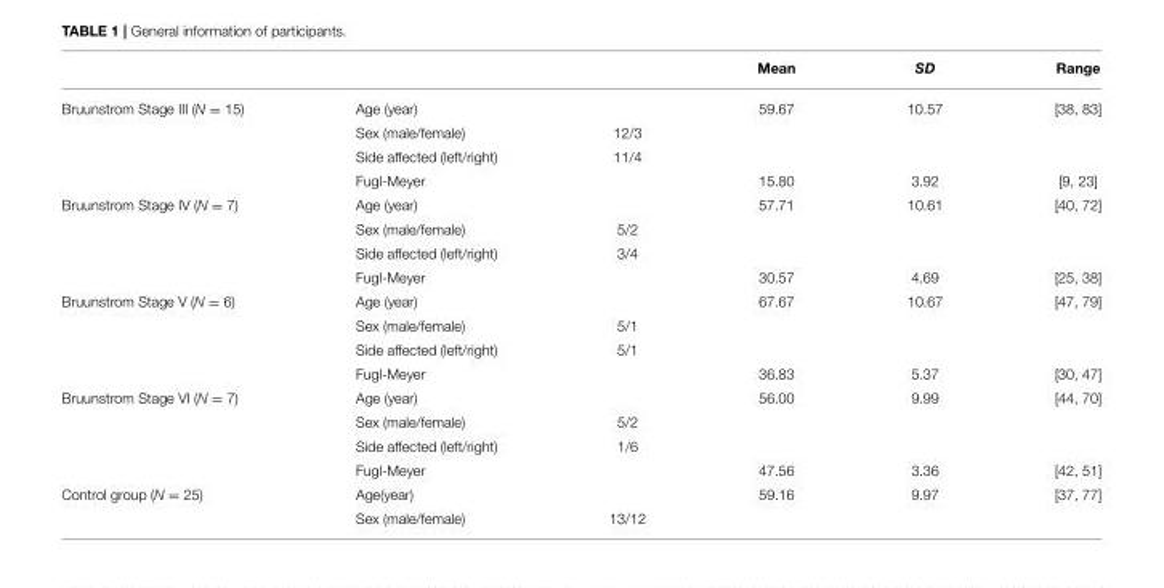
<table><thead><tr><td></td><td></td><td></td><td>Mean</td><td>SD</td><td>Range</td></tr></thead><tbody><tr><td rowspan="4">Bruunstrom Stage III (N = 15)</td><td>Age (year)</td><td></td><td>59.67</td><td>10.57</td><td>[38, 83]</td></tr><tr><td>Sex (male/female)</td><td>12/3</td><td></td><td></td><td></td></tr><tr><td>Side affected (left/right)</td><td>11/4</td><td></td><td></td><td></td></tr><tr><td>Fugl-Meyer</td><td></td><td>15.80</td><td>3.92</td><td>[9, 23]</td></tr><tr><td rowspan="4">Bruunstrom Stage IV (N = 7)</td><td>Age (year)</td><td></td><td>57.71</td><td>10.61</td><td>[40, 72]</td></tr><tr><td>Sex (male/female)</td><td>5/2</td><td></td><td></td><td></td></tr><tr><td>Side affected (left/right)</td><td>3/4</td><td></td><td></td><td></td></tr><tr><td>Fugl-Meyer</td><td></td><td>30.57</td><td>4.69</td><td>[25, 38]</td></tr><tr><td rowspan="4">Bruunstrom Stage V (N = 6)</td><td>Age (year)</td><td></td><td>67.67</td><td>10.67</td><td>[47, 79]</td></tr><tr><td>Sex (male/female)</td><td>5/1</td><td></td><td></td><td></td></tr><tr><td>Side affected (left/right)</td><td>5/1</td><td></td><td></td><td></td></tr><tr><td>Fugl-Meyer</td><td></td><td>36.83</td><td>5.37</td><td>[30, 47]</td></tr><tr><td rowspan="4">Bruunstrom Stage VI (N = 7)</td><td>Age (year)</td><td></td><td>56.00</td><td>9.99</td><td>[44, 70]</td></tr><tr><td>Sex (male/female)</td><td>5/2</td><td></td><td></td><td></td></tr><tr><td>Side affected (left/right)</td><td>1/6</td><td></td><td></td><td></td></tr><tr><td>Fugl-Meyer</td><td></td><td>47.56</td><td>3.36</td><td>[42, 51]</td></tr><tr><td rowspan="2">Control group (N = 25)</td><td>Age(year)</td><td></td><td>59.16</td><td>9.97</td><td>[37, 77]</td></tr><tr><td>Sex (male/female)</td><td>13/12</td><td></td><td></td><td></td></tr></tbody></table>